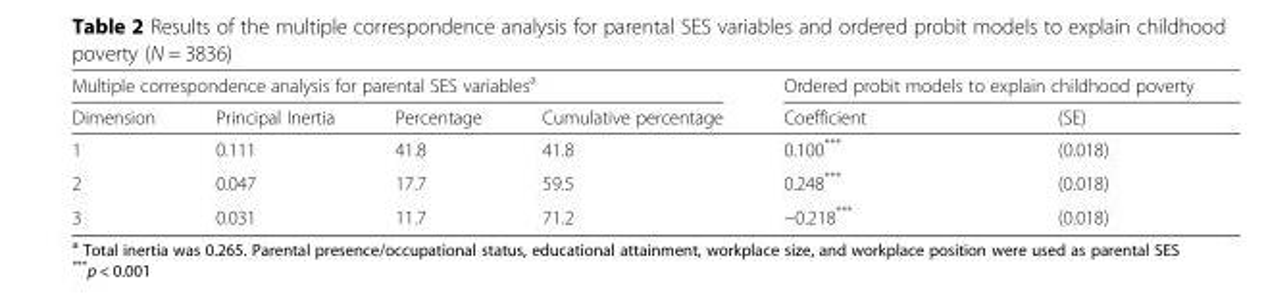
<table><thead><tr><td colspan="4">Multiple correspondence analysis for parental SES variables<sup>a</sup></td><td colspan="2">Ordered probit models to explain childhood poverty</td></tr><tr><td>Dimension</td><td>Principal Inertia</td><td>Percentage</td><td>Cumulative percentage</td><td>Coefficient</td><td>(SE)</td></tr></thead><tbody><tr><td>1</td><td>0.111</td><td>41.8</td><td>41.8</td><td>0.100***</td><td>(0.018)</td></tr><tr><td>2</td><td>0.047</td><td>17.7</td><td>59.5</td><td>0.248***</td><td>(0.018)</td></tr><tr><td>3</td><td>0.031</td><td>11.7</td><td>71.2</td><td>−0.218***</td><td>(0.018)</td></tr></tbody></table>